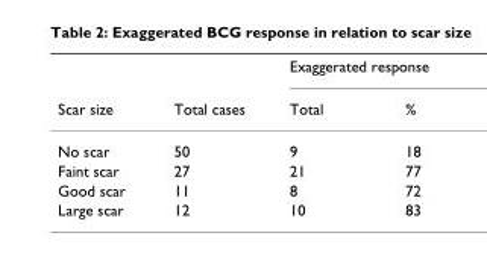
<table><thead><tr><td rowspan="2">Scar size</td><td rowspan="2">Total cases</td><td colspan="2">Exaggerated response</td></tr><tr><td>Total</td><td>%</td></tr></thead><tbody><tr><td>No scar</td><td>50</td><td>9</td><td>18</td></tr><tr><td>Faint scar</td><td>27</td><td>21</td><td>77</td></tr><tr><td>Good scar</td><td>11</td><td>8</td><td>72</td></tr><tr><td>Large scar</td><td>12</td><td>10</td><td>83</td></tr></tbody></table>